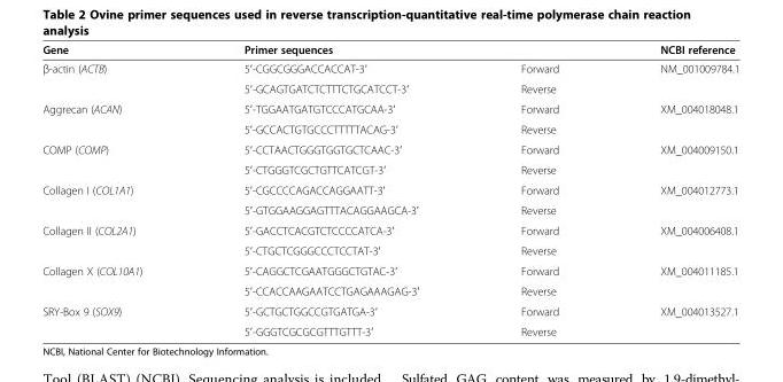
<table><thead><tr><td>Gene</td><td>Primer sequences</td><td></td><td>NCBI reference</td></tr></thead><tbody><tr><td rowspan="2">β-actin (ACTB)</td><td>5′-CGGCGGGACCACCAT-3′</td><td>Forward</td><td rowspan="2">NM_001009784.1</td></tr><tr><td>5′-GCAGTGATCTCTTTCTGCATCCT-3′</td><td>Reverse</td></tr><tr><td rowspan="2">Aggrecan (ACAN)</td><td>5′-TGGAATGATGTCCCATGCAA-3′</td><td>Forward</td><td rowspan="2">XM_004018048.1</td></tr><tr><td>5′-GCCACTGTGCCCTTTTTACAG-3′</td><td>Reverse</td></tr><tr><td rowspan="2">COMP (COMP)</td><td>5′-CCTAACTGGGTGGTGCTCAAC-3′</td><td>Forward</td><td rowspan="2">XM_004009150.1</td></tr><tr><td>5′-CTGGGTCGCTGTTCATCGT-3′</td><td>Reverse</td></tr><tr><td rowspan="2">Collagen I (COL1A1)</td><td>5′-CGCCCCAGACCAGGAATT-3′</td><td>Forward</td><td rowspan="2">XM_004012773.1</td></tr><tr><td>5′-GTGGAAGGAGTTTACAGGAAGCA-3′</td><td>Reverse</td></tr><tr><td rowspan="2">Collagen II (COL2A1)</td><td>5′-GACCTCACGTCTCCCCATCA-3′</td><td>Forward</td><td rowspan="2">XM_004006408.1</td></tr><tr><td>5′-CTGCTCGGGCCCTCCTAT-3′</td><td>Reverse</td></tr><tr><td rowspan="2">Collagen X (COL10A1)</td><td>5′-CAGGCTCGAATGGGCTGTAC-3′</td><td>Forward</td><td rowspan="2">XM_004011185.1</td></tr><tr><td>5′-CCACCAAGAATCCTGAGAAAGAG-3′</td><td>Reverse</td></tr><tr><td rowspan="2">SRY-Box 9 (SOX9)</td><td>5′-GCTGCTGGCCGTGATGA-3′</td><td>Forward</td><td rowspan="2">XM_004013527.1</td></tr><tr><td>5′-GGGTCGCGCGTTTGTTT-3′</td><td>Reverse</td></tr></tbody></table>